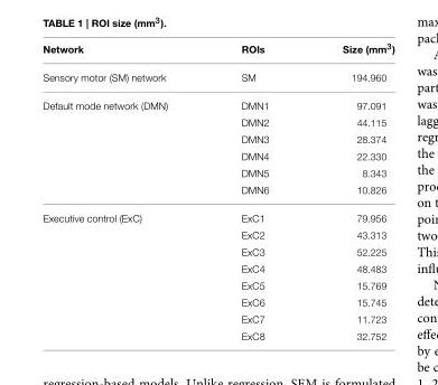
<table><thead><tr><td>Network</td><td>ROIs</td><td>Size (mm3)</td></tr></thead><tbody><tr><td>Sensory motor (SM) network</td><td>SM</td><td>194.960</td></tr><tr><td rowspan="6">Default mode network (DMN)</td><td>DMN1</td><td>97.091</td></tr><tr><td>DMN2</td><td>44.115</td></tr><tr><td>DMN3</td><td>28.374</td></tr><tr><td>DMN4</td><td>22.330</td></tr><tr><td>DMN5</td><td>8.343</td></tr><tr><td>DMN6</td><td>10.826</td></tr><tr><td rowspan="8">Executive control (ExC)</td><td>ExC1</td><td>79.956</td></tr><tr><td>ExC2</td><td>43.313</td></tr><tr><td>ExC3</td><td>52.225</td></tr><tr><td>ExC4</td><td>48.483</td></tr><tr><td>ExC5</td><td>15.769</td></tr><tr><td>ExC6</td><td>15.745</td></tr><tr><td>ExC7</td><td>11.723</td></tr><tr><td>ExC8</td><td>32.752</td></tr></tbody></table>